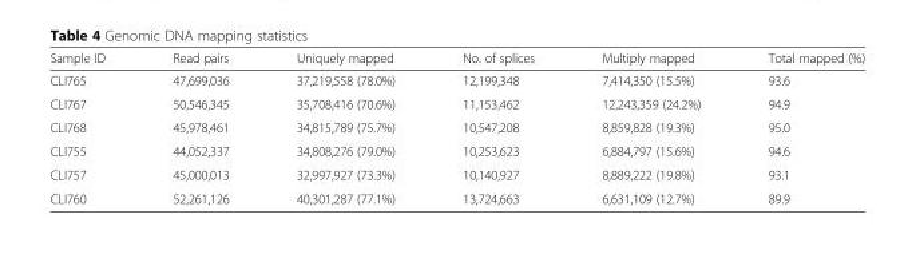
<table><thead><tr><td>Sample ID</td><td>Read pairs</td><td>Uniquely mapped</td><td>No. of splices</td><td>Multiply mapped</td><td>Total mapped (%)</td></tr></thead><tbody><tr><td>CLI765</td><td>47,699,036</td><td>37,219,558 (78.0%)</td><td>12,199,348</td><td>7,414,350 (15.5%)</td><td>93.6</td></tr><tr><td>CLI767</td><td>50,546,345</td><td>35,708,416 (70.6%)</td><td>11,153,462</td><td>12,243,359 (24.2%)</td><td>94.9</td></tr><tr><td>CLI768</td><td>45,978,461</td><td>34,815,789 (75.7%)</td><td>10,547,208</td><td>8,859,828 (19.3%)</td><td>95.0</td></tr><tr><td>CLI755</td><td>44,052,337</td><td>34,808,276 (79.0%)</td><td>10,253,623</td><td>6,884,797 (15.6%)</td><td>94.6</td></tr><tr><td>CLI757</td><td>45,000,013</td><td>32,997,927 (73.3%)</td><td>10,140,927</td><td>8,889,222 (19.8%)</td><td>93.1</td></tr><tr><td>CLI760</td><td>52,261,126</td><td>40,301,287 (77.1%)</td><td>13,724,663</td><td>6,631,109 (12.7%)</td><td>89.9</td></tr></tbody></table>